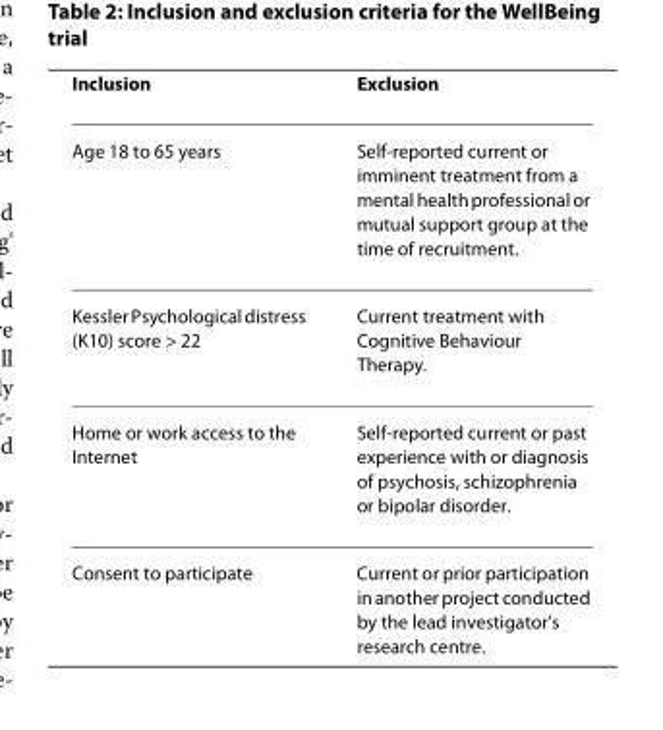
<table><thead><tr><td>Inclusion</td><td>Exclusion</td></tr></thead><tbody><tr><td>Age 18 to 65 years</td><td>Self-reported current or imminent treatment from a mental health professional or mutual support group at the time of recruitment.</td></tr><tr><td>Kessler Psychological distress (K10) score &gt; 22</td><td>Current treatment with Cognitive Behaviour Therapy.</td></tr><tr><td>Home or work access to the Internet</td><td>Self-reported current or past experience with or diagnosis of psychosis, schizophrenia or bipolar disorder.</td></tr><tr><td>Consent to participate</td><td>Current or prior participation in another project conducted by the lead investigator&#x27;s research centre.</td></tr></tbody></table>